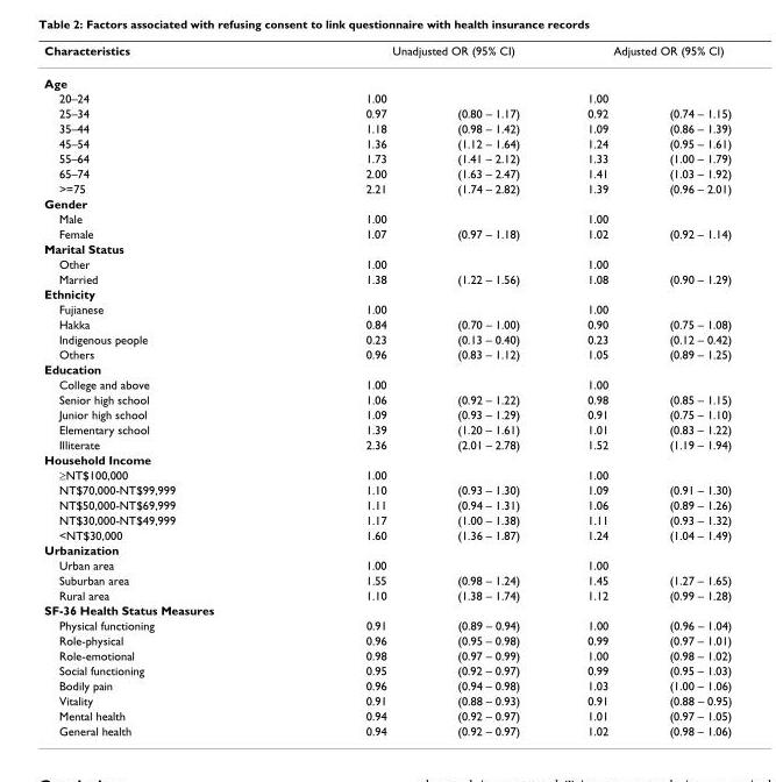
<table><thead><tr><td rowspan="2">Characteristics Age</td><td colspan="2">Unadjusted OR (95% CI)</td><td colspan="2">Adjusted OR (95% CI)</td></tr><tr><td></td><td></td><td></td><td></td></tr></thead><tbody><tr><td>20–24</td><td>1.00</td><td></td><td>1.00</td><td></td></tr><tr><td>25–34</td><td>0.97</td><td>(0.80 – 1.17)</td><td>0.92</td><td>(0.74 – 1.15)</td></tr><tr><td>35–44</td><td>1.18</td><td>(0.98 – 1.42)</td><td>1.09</td><td>(0.86 – 1.39)</td></tr><tr><td>45–54</td><td>1.36</td><td>(1.12 – 1.64)</td><td>1.24</td><td>(0.95 – 1.61)</td></tr><tr><td>55–64</td><td>1.73</td><td>(1.41 – 2.12)</td><td>1.33</td><td>(1.00 – 1.79)</td></tr><tr><td>65–74</td><td>2.00</td><td>(1.63 – 2.47)</td><td>1.41</td><td>(1.03 – 1.92)</td></tr><tr><td>&gt;=75</td><td>2.21</td><td>(1.74 – 2.82)</td><td>1.39</td><td>(0.96 – 2.01)</td></tr><tr><td colspan="5">Gender</td></tr><tr><td>Male</td><td>1.00</td><td></td><td>1.00</td><td></td></tr><tr><td>Female</td><td>1.07</td><td>(0.97 – 1.18)</td><td>1.02</td><td>(0.92 – 1.14)</td></tr><tr><td colspan="5">Marital Status</td></tr><tr><td>Other</td><td>1.00</td><td></td><td>1.00</td><td></td></tr><tr><td>Married</td><td>1.38</td><td>(1.22 – 1.56)</td><td>1.08</td><td>(0.90 – 1.29)</td></tr><tr><td colspan="5">Ethnicity</td></tr><tr><td>Fujianese</td><td>1.00</td><td></td><td>1.00</td><td></td></tr><tr><td>Hakka</td><td>0.84</td><td>(0.70 – 1.00)</td><td>0.90</td><td>(0.75 – 1.08)</td></tr><tr><td>Indigenous people</td><td>0.23</td><td>(0.13 – 0.40)</td><td>0.23</td><td>(0.12 – 0.42)</td></tr><tr><td>Others</td><td>0.96</td><td>(0.83 – 1.12)</td><td>1.05</td><td>(0.89 – 1.25)</td></tr><tr><td colspan="5">Education</td></tr><tr><td>College and above</td><td>1.00</td><td></td><td>1.00</td><td></td></tr><tr><td>Senior high school</td><td>1.06</td><td>(0.92 – 1.22)</td><td>0.98</td><td>(0.85 – 1.15)</td></tr><tr><td>Junior high school</td><td>1.09</td><td>(0.93 – 1.29)</td><td>0.91</td><td>(0.75 – 1.10)</td></tr><tr><td>Elementary school</td><td>1.39</td><td>(1.20 – 1.61)</td><td>1.01</td><td>(0.83 – 1.22)</td></tr><tr><td>Illiterate</td><td>2.36</td><td>(2.01 – 2.78)</td><td>1.52</td><td>(1.19 – 1.94)</td></tr><tr><td colspan="5">Household Income</td></tr><tr><td>≥NT$100,000</td><td>1.00</td><td></td><td>1.00</td><td></td></tr><tr><td>NT$70,000-NT$99,999</td><td>1.10</td><td>(0.93 – 1.30)</td><td>1.09</td><td>(0.91 – 1.30)</td></tr><tr><td>NT$50,000-NT$69,999</td><td>1.11</td><td>(0.94 – 1.31)</td><td>1.06</td><td>(0.89 – 1.26)</td></tr><tr><td>NT$30,000-NT$49,999</td><td>1.17</td><td>(1.00 – 1.38)</td><td>1.11</td><td>(0.93 – 1.32)</td></tr><tr><td>&lt;NT$30,000</td><td>1.60</td><td>(1.36 – 1.87)</td><td>1.24</td><td>(1.04 – 1.49)</td></tr><tr><td colspan="5">Urbanization</td></tr><tr><td>Urban area</td><td>1.00</td><td></td><td>1.00</td><td></td></tr><tr><td>Suburban area</td><td>1.55</td><td>(0.98 – 1.24)</td><td>1.45</td><td>(1.27 – 1.65)</td></tr><tr><td>Rural area</td><td>1.10</td><td>(1.38 – 1.74)</td><td>1.12</td><td>(0.99 – 1.28)</td></tr><tr><td colspan="5">SF-36 Health Status Measures</td></tr><tr><td>Physical functioning</td><td>0.91</td><td>(0.89 – 0.94)</td><td>1.00</td><td>(0.96 – 1.04)</td></tr><tr><td>Role-physical</td><td>0.96</td><td>(0.95 – 0.98)</td><td>0.99</td><td>(0.97 – 1.01)</td></tr><tr><td>Role-emotional</td><td>0.98</td><td>(0.97 – 0.99)</td><td>1.00</td><td>(0.98 – 1.02)</td></tr><tr><td>Social functioning</td><td>0.95</td><td>(0.92 – 0.97)</td><td>0.99</td><td>(0.95 – 1.03)</td></tr><tr><td>Bodily pain</td><td>0.96</td><td>(0.94 – 0.98)</td><td>1.03</td><td>(1.00 – 1.06)</td></tr><tr><td>Vitality</td><td>0.91</td><td>(0.88 – 0.93)</td><td>0.91</td><td>(0.88 – 0.95)</td></tr><tr><td>Mental health</td><td>0.94</td><td>(0.92 – 0.97)</td><td>1.01</td><td>(0.97 – 1.05)</td></tr><tr><td>General health</td><td>0.94</td><td>(0.92 – 0.97)</td><td>1.02</td><td>(0.98 – 1.06)</td></tr></tbody></table>